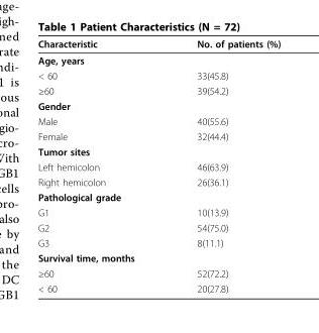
<table><thead><tr><td>Characteristic</td><td>No. of patients (%)</td></tr></thead><tbody><tr><td colspan="2">Age, years</td></tr><tr><td>&lt; 60</td><td>33(45.8)</td></tr><tr><td>≥60</td><td>39(54.2)</td></tr><tr><td colspan="2">Gender</td></tr><tr><td>Male</td><td>40(55.6)</td></tr><tr><td>Female</td><td>32(44.4)</td></tr><tr><td colspan="2">Tumor sites</td></tr><tr><td>Left hemicolon</td><td>46(63.9)</td></tr><tr><td>Right hemicolon</td><td>26(36.1)</td></tr><tr><td colspan="2">Pathological grade</td></tr><tr><td>G1</td><td>10(13.9)</td></tr><tr><td>G2</td><td>54(75.0)</td></tr><tr><td>G3</td><td>8(11.1)</td></tr><tr><td colspan="2">Survival time, months</td></tr><tr><td>≥60</td><td>52(72.2)</td></tr><tr><td>&lt; 60</td><td>20(27.8)</td></tr></tbody></table>